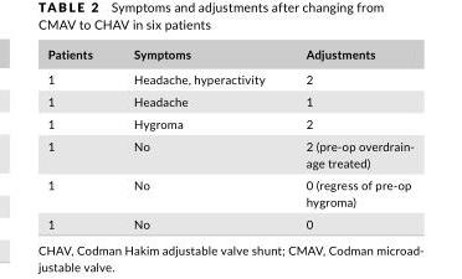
<table><thead><tr><td>Patients</td><td>Symptoms</td><td>Adjustments</td></tr></thead><tbody><tr><td>1</td><td>Headache, hyperactivity</td><td>2</td></tr><tr><td>1</td><td>Headache</td><td>1</td></tr><tr><td>1</td><td>Hygroma</td><td>2</td></tr><tr><td>1</td><td>No</td><td>2 (pre- op overdrain- age treated)</td></tr><tr><td>1</td><td>No</td><td>0 (regress of pre- op hygroma)</td></tr><tr><td>1</td><td>No</td><td>0</td></tr></tbody></table>